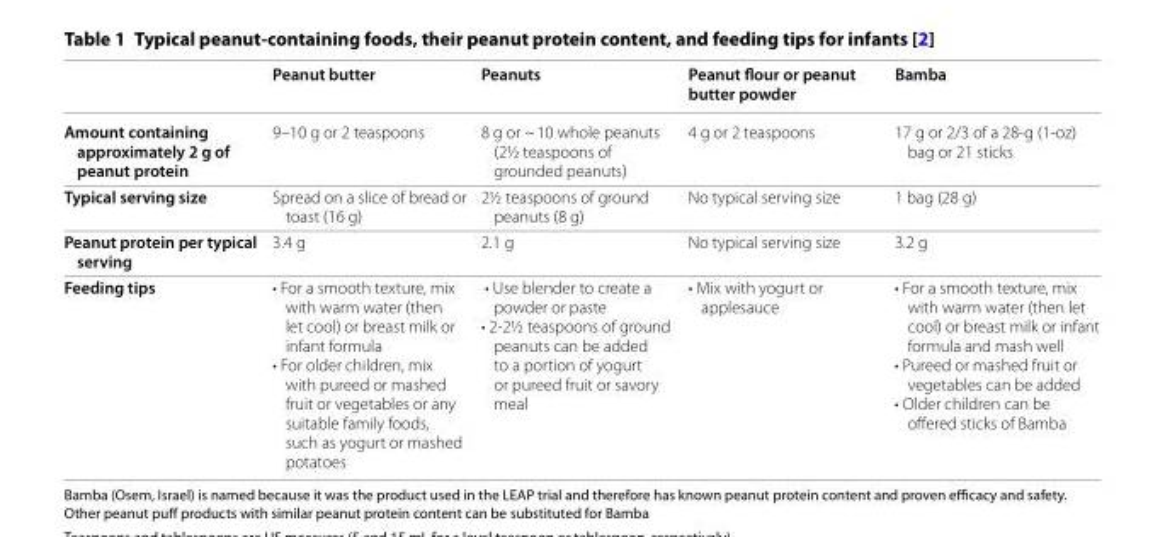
<table><thead><tr><td></td><td>Peanut butter</td><td>Peanuts</td><td>Peanut flour or peanut butter powder</td><td>Bamba</td></tr></thead><tbody><tr><td>Amount containing approximately 2 g of peanut protein</td><td>9–10 g or 2 teaspoons</td><td>8 g or ~ 10 whole peanuts (2½ teaspoons of grounded peanuts)</td><td>4 g or 2 teaspoons</td><td>17 g or 2/3 of a 28-g (1-oz) bag or 21 sticks</td></tr><tr><td>Typical serving size</td><td>Spread on a slice of bread or toast (16 g)</td><td>2½ teaspoons of ground peanuts (8 g)</td><td>No typical serving size</td><td>1 bag (28 g)</td></tr><tr><td>Peanut protein per typical serving</td><td>3.4 g</td><td>2.1 g</td><td>No typical serving size</td><td>3.2 g</td></tr><tr><td>Feeding tips</td><td>• For a smooth texture, mix with warm water (then let cool) or breast milk or infant formula • For older children, mix with pureed or mashed fruit or vegetables or any suitable family foods, such as yogurt or mashed potatoes</td><td>• Use blender to create a powder or paste • 2-2½ teaspoons of ground peanuts can be added to a portion of yogurt or pureed fruit or savory meal</td><td>• Mix with yogurt or applesauce</td><td>• For a smooth texture, mix with warm water (then let cool) or breast milk or infant formula and mash well • Pureed or mashed fruit or vegetables can be added • Older children can be offered sticks of Bamba</td></tr></tbody></table>